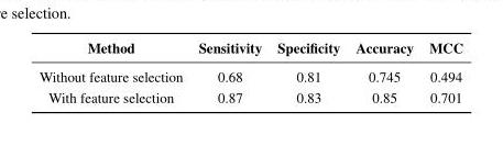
<table><thead><tr><td>Method</td><td>Sensitivity</td><td>Specificity</td><td>Accuracy</td><td>MCC</td></tr></thead><tbody><tr><td>Without feature selection</td><td>0.68</td><td>0.81</td><td>0.745</td><td>0.494</td></tr><tr><td>With feature selection</td><td>0.87</td><td>0.83</td><td>0.85</td><td>0.701</td></tr></tbody></table>